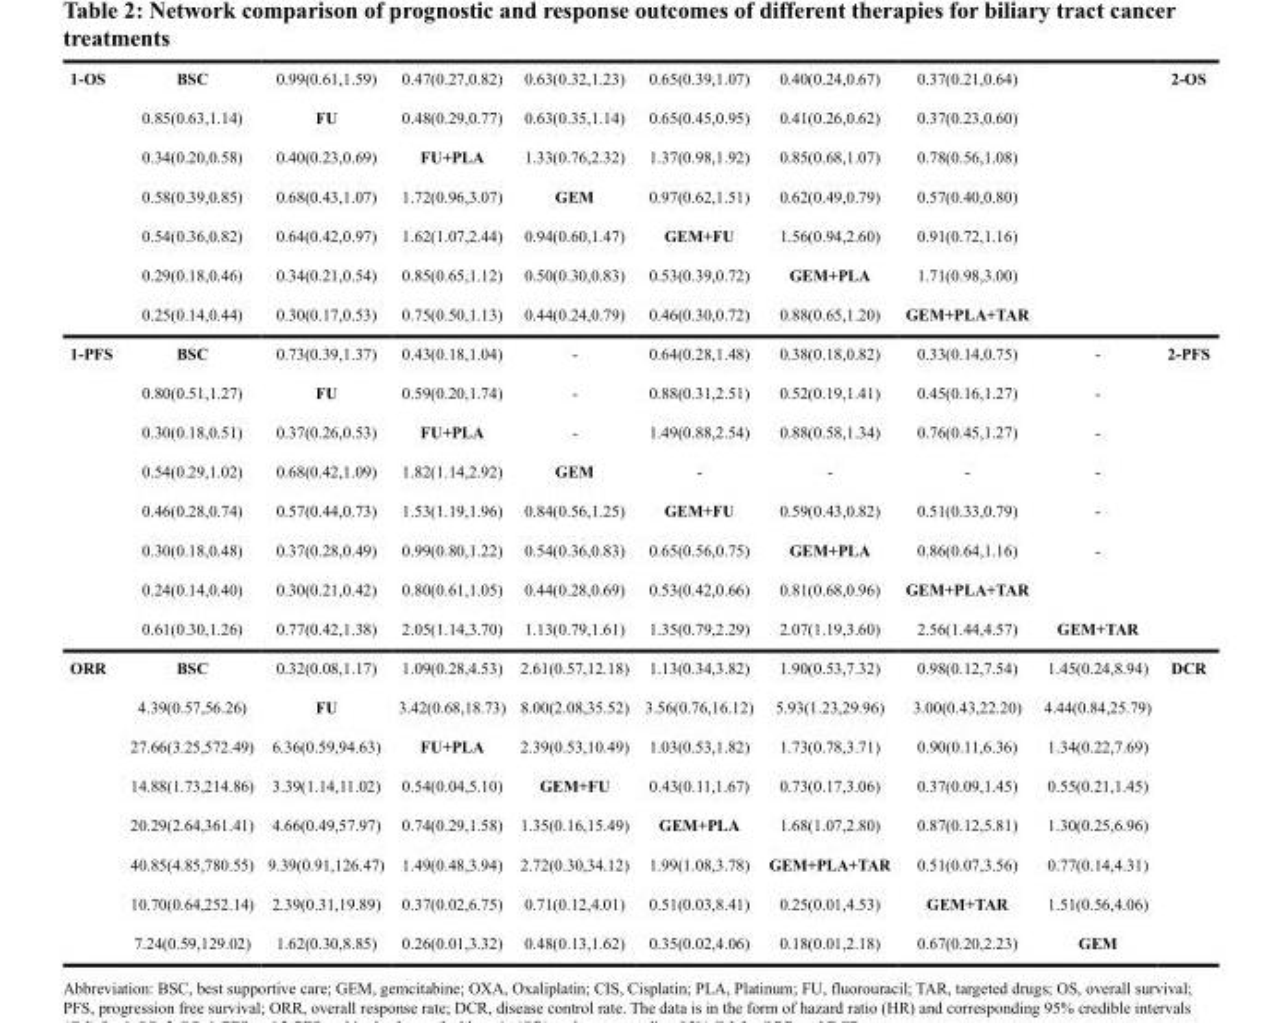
<table><tbody><tr><td rowspan="7">1-OS</td><td>BSC</td><td>0.99(0.61,1.59)</td><td>0.47(0.27,0.82)</td><td>0.63(0.32,1.23)</td><td>0.65(0.39,1.07)</td><td>0.40(0.24,0.67)</td><td>0.37(0.21,0.64)</td><td></td><td rowspan="7">2-OS</td></tr><tr><td>0.85(0.63,1.14)</td><td>FU</td><td>0.48(0.29,0.77)</td><td>0.63(0.35,1.14)</td><td>0.65(0.45,0.95)</td><td>0.41(0.26,0.62)</td><td>0.37(0.23,0.60)</td><td></td></tr><tr><td>0.34(0.20,0.58)</td><td>0.40(0.23,0.69)</td><td>FU+PLA</td><td>1.33(0.76,2.32)</td><td>1.37(0.98,1.92)</td><td>0.85(0.68,1.07)</td><td>0.78(0.56,1.08)</td><td></td></tr><tr><td>0.58(0.39,0.85)</td><td>0.68(0.43,1.07)</td><td>1.72(0.96,3.07)</td><td>GEM</td><td>0.97(0.62,1.51)</td><td>0.62(0.49,0.79)</td><td>0.57(0.40,0.80)</td><td></td></tr><tr><td>0.54(0.36,0.82)</td><td>0.64(0.42,0.97)</td><td>1.62(1.07,2.44)</td><td>0.94(0.60,1.47)</td><td>GEM+FU</td><td>1.56(0.94,2.60)</td><td>0.91(0.72,1.16)</td><td></td></tr><tr><td>0.29(0.18,0.46)</td><td>0.34(0.21,0.54)</td><td>0.85(0.65,1.12)</td><td>0.50(0.30,0.83)</td><td>0.53(0.39,0.72)</td><td>GEM+PLA</td><td>1.71(0.98,3.00)</td><td></td></tr><tr><td>0.25(0.14,0.44)</td><td>0.30(0.17,0.53)</td><td>0.75(0.50,1.13)</td><td>0.44(0.24,0.79)</td><td>0.46(0.30,0.72)</td><td>0.88(0.65,1.20)</td><td>GEM+PLA+TAR</td><td></td></tr><tr><td rowspan="8">1-PFS</td><td>BSC</td><td>0.73(0.39,1.37)</td><td>0.43(0.18,1.04)</td><td>-</td><td>0.64(0.28,1.48)</td><td>0.38(0.18,0.82)</td><td>0.33(0.14,0.75)</td><td>-</td><td rowspan="8">2-PFS</td></tr><tr><td>0.80(0.51,1.27)</td><td>FU</td><td>0.59(0.20,1.74)</td><td>-</td><td>0.88(0.31,2.51)</td><td>0.52(0.19,1.41)</td><td>0.45(0.16,1.27)</td><td>-</td></tr><tr><td>0.30(0.18,0.51)</td><td>0.37(0.26,0.53)</td><td>FU+PLA</td><td>-</td><td>1.49(0.88,2.54)</td><td>0.88(0.58,1.34)</td><td>0.76(0.45,1.27)</td><td>-</td></tr><tr><td>0.54(0.29,1.02)</td><td>0.68(0.42,1.09)</td><td>1.82(1.14,2.92)</td><td>GEM</td><td>-</td><td>-</td><td>-</td><td>-</td></tr><tr><td>0.46(0.28,0.74)</td><td>0.57(0.44,0.73)</td><td>1.53(1.19,1.96)</td><td>0.84(0.56,1.25)</td><td>GEM+FU</td><td>0.59(0.43,0.82)</td><td>0.51(0.33,0.79)</td><td>-</td></tr><tr><td>0.30(0.18,0.48)</td><td>0.37(0.28,0.49)</td><td>0.99(0.80,1.22)</td><td>0.54(0.36,0.83)</td><td>0.65(0.56,0.75)</td><td>GEM+PLA</td><td>0.86(0.64,1.16)</td><td>-</td></tr><tr><td>0.24(0.14,0.40)</td><td>0.30(0.21,0.42)</td><td>0.80(0.61,1.05)</td><td>0.44(0.28,0.69)</td><td>0.53(0.42,0.66)</td><td>0.81(0.68,0.96)</td><td>GEM+PLA+TAR</td><td></td></tr><tr><td>0.61(0.30,1.26)</td><td>0.77(0.42,1.38)</td><td>2.05(1.14,3.70)</td><td>1.13(0.79,1.61)</td><td>1.35(0.79,2.29)</td><td>2.07(1.19,3.60)</td><td>2.56(1.44,4.57)</td><td>GEM+TAR</td></tr><tr><td rowspan="8">ORR</td><td>BSC</td><td>0.32(0.08,1.17)</td><td>1.09(0.28,4.53)</td><td>2.61(0.57,12.18)</td><td>1.13(0.34,3.82)</td><td>1.90(0.53,7.32)</td><td>0.98(0.12,7.54)</td><td>1.45(0.24,8.94)</td><td rowspan="8">DCR</td></tr><tr><td>4.39(0.57,56.26)</td><td>FU</td><td>3.42(0.68,18.73)</td><td>8.00(2.08,35.52)</td><td>3.56(0.76,16.12)</td><td>5.93(1.23,29.96)</td><td>3.00(0.43,22.20)</td><td>4.44(0.84,25.79)</td></tr><tr><td>27.66(3.25,572.49)</td><td>6.36(0.59,94.63)</td><td>FU+PLA</td><td>2.39(0.53,10.49)</td><td>1.03(0.53,1.82)</td><td>1.73(0.78,3.71)</td><td>0.90(0.11,6.36)</td><td>1.34(0.22,7.69)</td></tr><tr><td>14.88(1.73,214.86)</td><td>3.39(1.14,11.02)</td><td>0.54(0.04,5.10)</td><td>GEM+FU</td><td>0.43(0.11,1.67)</td><td>0.73(0.17,3.06)</td><td>0.37(0.09,1.45)</td><td>0.55(0.21,1.45)</td></tr><tr><td>20.29(2.64,361.41)</td><td>4.66(0.49,57.97)</td><td>0.74(0.29,1.58)</td><td>1.35(0.16,15.49)</td><td>GEM+PLA</td><td>1.68(1.07,2.80)</td><td>0.87(0.12,5.81)</td><td>1.30(0.25,6.96)</td></tr><tr><td>40.85(4.85,780.55)</td><td>9.39(0.91,126.47)</td><td>1.49(0.48,3.94)</td><td>2.72(0.30,34.12)</td><td>1.99(1.08,3.78)</td><td>GEM+PLA+TAR</td><td>0.51(0.07,3.56)</td><td>0.77(0.14,4.31)</td></tr><tr><td>10.70(0.64,252.14)</td><td>2.39(0.31,19.89)</td><td>0.37(0.02,6.75)</td><td>0.71(0.12,4.01)</td><td>0.51(0.03,8.41)</td><td>0.25(0.01,4.53)</td><td>GEM+TAR</td><td>1.51(0.56,4.06)</td></tr><tr><td>7.24(0.59,129.02)</td><td>1.62(0.30,8.85)</td><td>0.26(0.01,3.32)</td><td>0.48(0.13,1.62)</td><td>0.35(0.02,4.06)</td><td>0.18(0.01,2.18)</td><td>0.67(0.20,2.23)</td><td>GEM</td></tr></tbody></table>